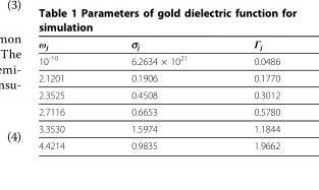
<table><thead><tr><td>ω<sub>j</sub></td><td>σ<sub>j</sub></td><td>Γ<sub>j</sub></td></tr></thead><tbody><tr><td>10<sup>-10</sup></td><td>6.2634 × 10<sup>21</sup></td><td>0.0486</td></tr><tr><td>2.1201</td><td>0.1906</td><td>0.1770</td></tr><tr><td>2.3525</td><td>0.4508</td><td>0.3012</td></tr><tr><td>2.7116</td><td>0.6653</td><td>0.5780</td></tr><tr><td>3.3530</td><td>1.5974</td><td>1.1844</td></tr><tr><td>4.4214</td><td>0.9835</td><td>1.9662</td></tr></tbody></table>